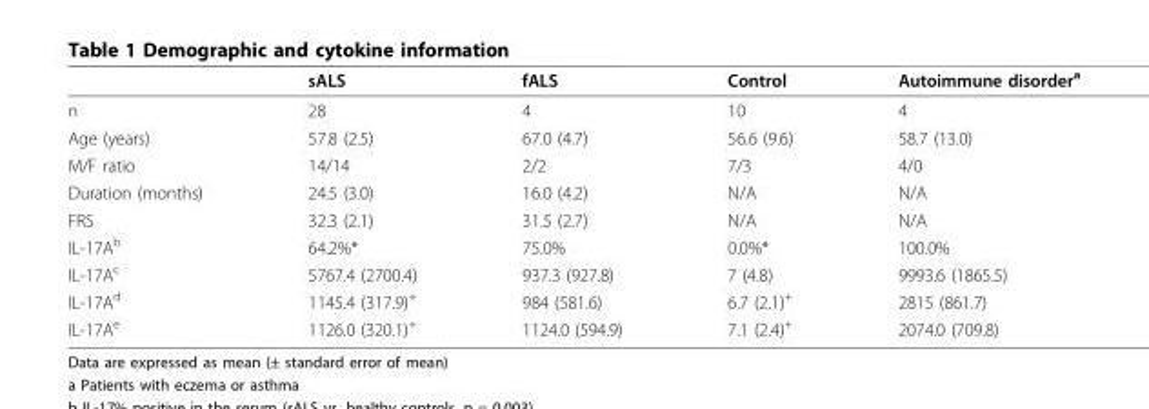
<table><thead><tr><td></td><td>sALS</td><td>fALS</td><td>Control</td><td>Autoimmune disorder<sup>a</sup></td></tr></thead><tbody><tr><td>n</td><td>28</td><td>4</td><td>10</td><td>4</td></tr><tr><td>Age (years)</td><td>57.8 (2.5)</td><td>67.0 (4.7)</td><td>56.6 (9.6)</td><td>58.7 (13.0)</td></tr><tr><td>M/F ratio</td><td>14/14</td><td>2/2</td><td>7/3</td><td>4/0</td></tr><tr><td>Duration (months)</td><td>24.5 (3.0)</td><td>16.0 (4.2)</td><td>N/A</td><td>N/A</td></tr><tr><td>FRS</td><td>32.3 (2.1)</td><td>31.5 (2.7)</td><td>N/A</td><td>N/A</td></tr><tr><td>IL-17A<sup>b</sup></td><td>64.2%*</td><td>75.0%</td><td>0.0%*</td><td>100.0%</td></tr><tr><td>IL-17A<sup>c</sup></td><td>5767.4 (2700.4)</td><td>937.3 (927.8)</td><td>7 (4.8)</td><td>9993.6 (1865.5)</td></tr><tr><td>IL-17A<sup>d</sup></td><td>1145.4 (317.9)<sup>+</sup></td><td>984 (581.6)</td><td>6.7 (2.1)<sup>+</sup></td><td>2815 (861.7)</td></tr><tr><td>IL-17A<sup>e</sup></td><td>1126.0 (320.1)<sup>+</sup></td><td>1124.0 (594.9)</td><td>7.1 (2.4)<sup>+</sup></td><td>2074.0 (709.8)</td></tr></tbody></table>